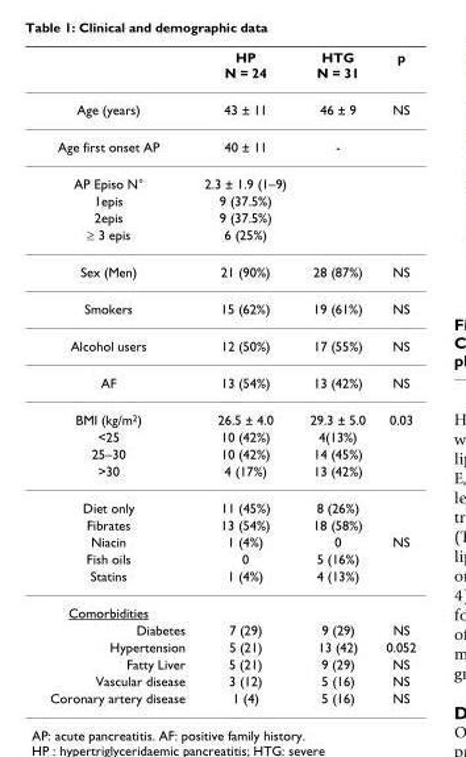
<table><thead><tr><td></td><td>HP N = 24</td><td>HTG N = 31</td><td>p</td></tr></thead><tbody><tr><td>Age (years)</td><td>43 ± 11</td><td>46 ± 9</td><td>NS</td></tr><tr><td>Age first onset AP</td><td>40 ± 11</td><td>-</td><td></td></tr><tr><td>AP Episo N°</td><td>2.3 ± 1.9 (1–9)</td><td></td><td></td></tr><tr><td>1epis</td><td>9 (37.5%)</td><td></td><td></td></tr><tr><td>2epis</td><td>9 (37.5%)</td><td></td><td></td></tr><tr><td>≥ 3 epis</td><td>6 (25%)</td><td></td><td></td></tr><tr><td>Sex (Men)</td><td>21 (90%)</td><td>28 (87%)</td><td>NS</td></tr><tr><td>Smokers</td><td>15 (62%)</td><td>19 (61%)</td><td>NS</td></tr><tr><td>Alcohol users</td><td>12 (50%)</td><td>17 (55%)</td><td>NS</td></tr><tr><td>AF</td><td>13 (54%)</td><td>13 (42%)</td><td>NS</td></tr><tr><td>BMI (kg/m<sup>2</sup>)</td><td>26.5 ± 4.0</td><td>29.3 ± 5.0</td><td>0.03</td></tr><tr><td>&lt;25</td><td>10 (42%)</td><td>4(13%)</td><td></td></tr><tr><td>25–30</td><td>10 (42%)</td><td>14 (45%)</td><td></td></tr><tr><td>&gt;30</td><td>4 (17%)</td><td>13 (42%)</td><td></td></tr><tr><td>Diet only</td><td>11 (45%)</td><td>8 (26%)</td><td></td></tr><tr><td>Fibrates</td><td>13 (54%)</td><td>18 (58%)</td><td></td></tr><tr><td>Niacin</td><td>1 (4%)</td><td>0</td><td>NS</td></tr><tr><td>Fish oils</td><td>0</td><td>5 (16%)</td><td></td></tr><tr><td>Statins</td><td>1 (4%)</td><td>4 (13%)</td><td></td></tr><tr><td colspan="4">Comorbidities</td></tr><tr><td>Diabetes</td><td>7 (29)</td><td>9 (29)</td><td>NS</td></tr><tr><td>Hypertension</td><td>5 (21)</td><td>13 (42)</td><td>0.052</td></tr><tr><td>Fatty Liver</td><td>5 (21)</td><td>9 (29)</td><td>NS</td></tr><tr><td>Vascular disease</td><td>3 (12)</td><td>5 (16)</td><td>NS</td></tr><tr><td>Coronary artery disease</td><td>1 (4)</td><td>5 (16)</td><td>NS</td></tr></tbody></table>